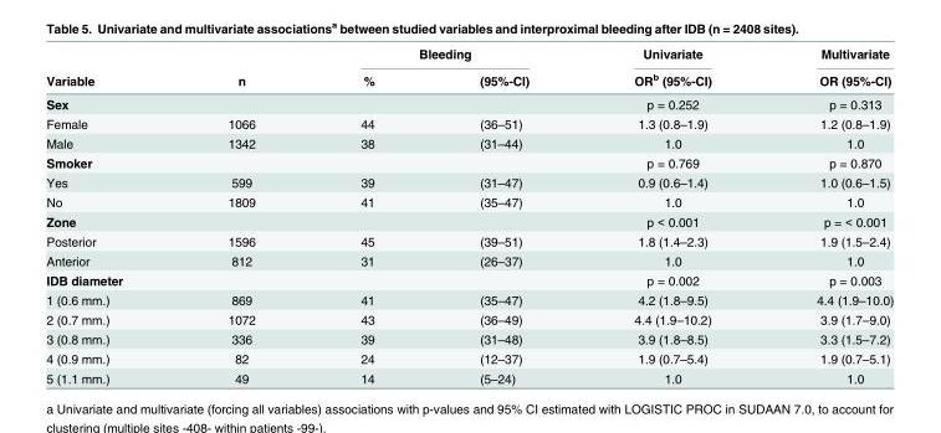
<table><thead><tr><td rowspan="2">Variable</td><td rowspan="2">n</td><td colspan="2">Bleeding</td><td rowspan="2">Univariate OR<sup>b</sup> (95%-CI)</td><td rowspan="2">Multivariate OR (95%-CI)</td></tr><tr><td>%</td><td>(95%-CI)</td></tr></thead><tbody><tr><td>Sex</td><td></td><td></td><td></td><td>p = 0.252</td><td>p = 0.313</td></tr><tr><td>Female</td><td>1066</td><td>44</td><td>(36–51)</td><td>1.3 (0.8–1.9)</td><td>1.2 (0.8–1.9)</td></tr><tr><td>Male</td><td>1342</td><td>38</td><td>(31–44)</td><td>1.0</td><td>1.0</td></tr><tr><td>Smoker</td><td></td><td></td><td></td><td>p = 0.769</td><td>p = 0.870</td></tr><tr><td>Yes</td><td>599</td><td>39</td><td>(31–47)</td><td>0.9 (0.6–1.4)</td><td>1.0 (0.6–1.5)</td></tr><tr><td>No</td><td>1809</td><td>41</td><td>(35–47)</td><td>1.0</td><td>1.0</td></tr><tr><td>Zone</td><td></td><td></td><td></td><td>p &lt; 0.001</td><td>p = &lt; 0.001</td></tr><tr><td>Posterior</td><td>1596</td><td>45</td><td>(39–51)</td><td>1.8 (1.4–2.3)</td><td>1.9 (1.5–2.4)</td></tr><tr><td>Anterior</td><td>812</td><td>31</td><td>(26–37)</td><td>1.0</td><td>1.0</td></tr><tr><td>IDB diameter</td><td></td><td></td><td></td><td>p = 0.002</td><td>p = 0.003</td></tr><tr><td>1 (0.6 mm.)</td><td>869</td><td>41</td><td>(35–47)</td><td>4.2 (1.8–9.5)</td><td>4.4 (1.9–10.0)</td></tr><tr><td>2 (0.7 mm.)</td><td>1072</td><td>43</td><td>(36–49)</td><td>4.4 (1.9–10.2)</td><td>3.9 (1.7–9.0)</td></tr><tr><td>3 (0.8 mm.)</td><td>336</td><td>39</td><td>(31–48)</td><td>3.9 (1.8–8.5)</td><td>3.3 (1.5–7.2)</td></tr><tr><td>4 (0.9 mm.)</td><td>82</td><td>24</td><td>(12–37)</td><td>1.9 (0.7–5.4)</td><td>1.9 (0.7–5.1)</td></tr><tr><td>5 (1.1 mm.)</td><td>49</td><td>14</td><td>(5–24)</td><td>1.0</td><td>1.0</td></tr></tbody></table>